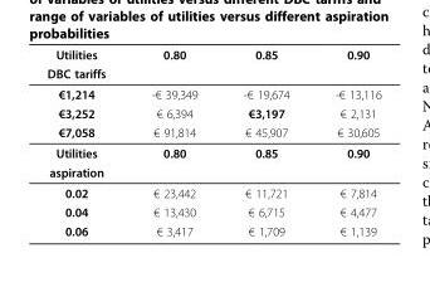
<table><thead><tr><td rowspan="2">Utilities DBC tariffs</td><td rowspan="2">0.80</td><td rowspan="2">0.85</td><td rowspan="2">0.90</td></tr><tr></tr></thead><tbody><tr><td>€1,214</td><td>-€ 39,349</td><td>-€ 19,674</td><td>-€ 13,116</td></tr><tr><td>€3,252</td><td>€ 6,394</td><td>€3,197</td><td>€ 2,131</td></tr><tr><td>€7,058</td><td>€ 91,814</td><td>€ 45,907</td><td>€ 30,605</td></tr><tr><td>Utilities</td><td>0.80</td><td>0.85</td><td>0.90</td></tr><tr><td colspan="4">aspiration</td></tr><tr><td>0.02</td><td>€ 23,442</td><td>€ 11,721</td><td>€ 7,814</td></tr><tr><td>0.04</td><td>€ 13,430</td><td>€ 6,715</td><td>€ 4,477</td></tr><tr><td>0.06</td><td>€ 3,417</td><td>€ 1,709</td><td>€ 1,139</td></tr></tbody></table>